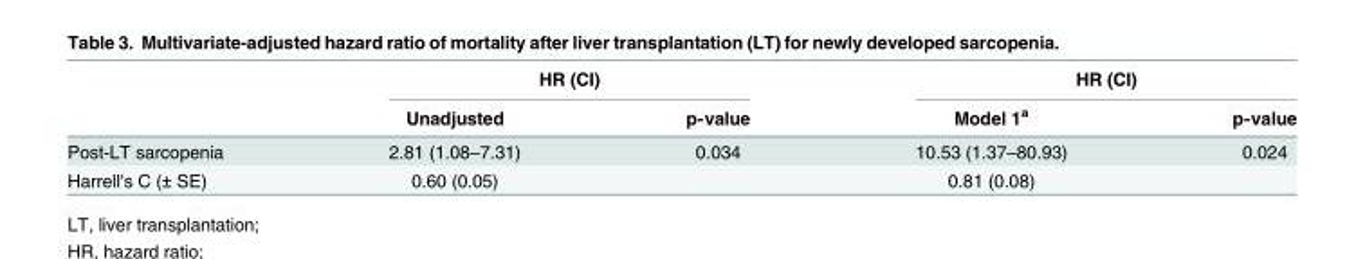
<table><thead><tr><td rowspan="2"></td><td colspan="2">HR (CI)</td><td colspan="2">HR (CI)</td></tr><tr><td>Unadjusted</td><td>p-value</td><td>Model 1<sup>a</sup></td><td>p-value</td></tr></thead><tbody><tr><td>Post-LT sarcopenia</td><td>2.81 (1.08–7.31)</td><td>0.034</td><td>10.53 (1.37–80.93)</td><td>0.024</td></tr><tr><td>Harrell&#x27;s C (± SE)</td><td>0.60 (0.05)</td><td></td><td>0.81 (0.08)</td><td></td></tr></tbody></table>